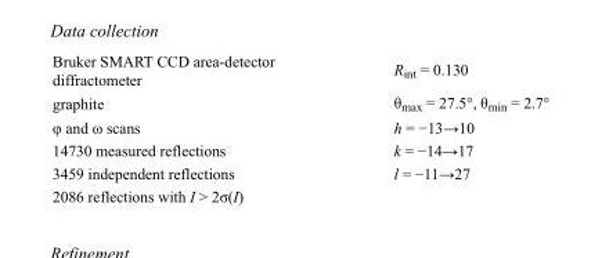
<table><tbody><tr><td>Bruker SMART CCD area-detector diffractometer</td><td>R<sub>int</sub> = 0.130</td></tr><tr><td>graphite</td><td>θ<sub>max</sub> = 27.5°, θ<sub>min</sub> = 2.7°</td></tr><tr><td>φ and ω scans</td><td>h = −13→10</td></tr><tr><td>14730 measured reflections</td><td>k = −14→17</td></tr><tr><td>3459 independent reflections</td><td>l = −11→27</td></tr><tr><td>2086 reflections with I &gt; 2σ(I)</td><td></td></tr></tbody></table>